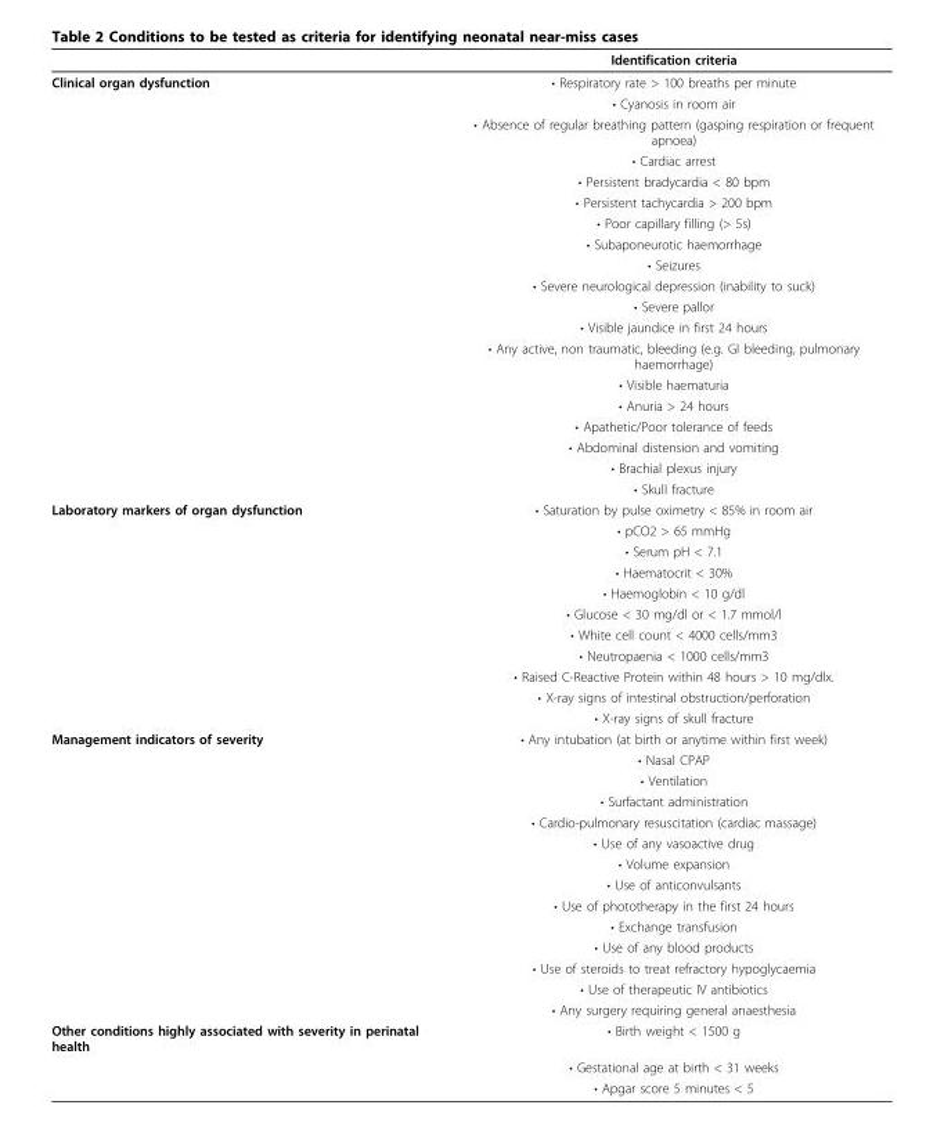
<table><thead><tr><td></td><td>Identification criteria</td></tr></thead><tbody><tr><td rowspan="19">Clinical organ dysfunction</td><td>• Respiratory rate &gt; 100 breaths per minute</td></tr><tr><td>• Cyanosis in room air</td></tr><tr><td>• Absence of regular breathing pattern (gasping respiration or frequent apnoea)</td></tr><tr><td>• Cardiac arrest</td></tr><tr><td>• Persistent bradycardia &lt; 80 bpm</td></tr><tr><td>• Persistent tachycardia &gt; 200 bpm</td></tr><tr><td>• Poor capillary filling (&gt; 5s)</td></tr><tr><td>• Subaponeurotic haemorrhage</td></tr><tr><td>• Seizures</td></tr><tr><td>• Severe neurological depression (inability to suck)</td></tr><tr><td>• Severe pallor</td></tr><tr><td>• Visible jaundice in first 24 hours</td></tr><tr><td>• Any active, non traumatic, bleeding (e.g. GI bleeding, pulmonary haemorrhage)</td></tr><tr><td>• Visible haematuria</td></tr><tr><td>• Anuria &gt; 24 hours</td></tr><tr><td>• Apathetic/Poor tolerance of feeds</td></tr><tr><td>• Abdominal distension and vomiting</td></tr><tr><td>• Brachial plexus injury</td></tr><tr><td>• Skull fracture</td></tr><tr><td rowspan="11">Laboratory markers of organ dysfunction</td><td>• Saturation by pulse oximetry &lt; 85% in room air</td></tr><tr><td>• pCO2 &gt; 65 mmHg</td></tr><tr><td>• Serum pH &lt; 7.1</td></tr><tr><td>• Haematocrit &lt; 30%</td></tr><tr><td>• Haemoglobin &lt; 10 g/dl</td></tr><tr><td>• Glucose &lt; 30 mg/dl or &lt; 1.7 mmol/l</td></tr><tr><td>• White cell count &lt; 4000 cells/mm3</td></tr><tr><td>• Neutropaenia &lt; 1000 cells/mm3</td></tr><tr><td>• Raised C-Reactive Protein within 48 hours &gt; 10 mg/dlx.</td></tr><tr><td>• X-ray signs of intestinal obstruction/perforation</td></tr><tr><td>• X-ray signs of skull fracture</td></tr><tr><td rowspan="14">Management indicators of severity</td><td>• Any intubation (at birth or anytime within first week)</td></tr><tr><td>• Nasal CPAP</td></tr><tr><td>• Ventilation</td></tr><tr><td>• Surfactant administration</td></tr><tr><td>• Cardio-pulmonary resuscitation (cardiac massage)</td></tr><tr><td>• Use of any vasoactive drug</td></tr><tr><td>• Volume expansion</td></tr><tr><td>• Use of anticonvulsants</td></tr><tr><td>• Use of phototherapy in the first 24 hours</td></tr><tr><td>• Exchange transfusion</td></tr><tr><td>• Use of any blood products</td></tr><tr><td>• Use of steroids to treat refractory hypoglycaemia</td></tr><tr><td>• Use of therapeutic IV antibiotics</td></tr><tr><td>• Any surgery requiring general anaesthesia</td></tr><tr><td rowspan="3">Other conditions highly associated with severity in perinatal health</td><td>• Birth weight &lt; 1500 g</td></tr><tr><td>• Gestational age at birth &lt; 31 weeks</td></tr><tr><td>• Apgar score 5 minutes &lt; 5</td></tr></tbody></table>